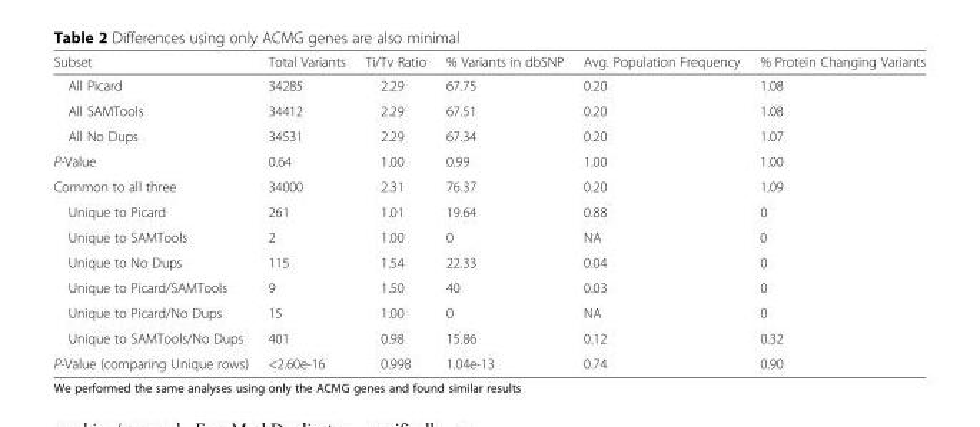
<table><thead><tr><td>Subset</td><td>Total Variants</td><td>Ti/Tv Ratio</td><td>% Variants in dbSNP</td><td>Avg. Population Frequency</td><td>% Protein Changing Variants</td></tr></thead><tbody><tr><td>All Picard</td><td>34285</td><td>2.29</td><td>67.75</td><td>0.20</td><td>1.08</td></tr><tr><td>All SAMTools</td><td>34412</td><td>2.29</td><td>67.51</td><td>0.20</td><td>1.08</td></tr><tr><td>All No Dups</td><td>34531</td><td>2.29</td><td>67.34</td><td>0.20</td><td>1.07</td></tr><tr><td>P-Value</td><td>0.64</td><td>1.00</td><td>0.99</td><td>1.00</td><td>1.00</td></tr><tr><td>Common to all three</td><td>34000</td><td>2.31</td><td>76.37</td><td>0.20</td><td>1.09</td></tr><tr><td>Unique to Picard</td><td>261</td><td>1.01</td><td>19.64</td><td>0.88</td><td>0</td></tr><tr><td>Unique to SAMTools</td><td>2</td><td>1.00</td><td>0</td><td>NA</td><td>0</td></tr><tr><td>Unique to No Dups</td><td>115</td><td>1.54</td><td>22.33</td><td>0.04</td><td>0</td></tr><tr><td>Unique to Picard/SAMTools</td><td>9</td><td>1.50</td><td>40</td><td>0.03</td><td>0</td></tr><tr><td>Unique to Picard/No Dups</td><td>15</td><td>1.00</td><td>0</td><td>NA</td><td>0</td></tr><tr><td>Unique to SAMTools/No Dups</td><td>401</td><td>0.98</td><td>15.86</td><td>0.12</td><td>0.32</td></tr><tr><td>P-Value (comparing Unique rows)</td><td>&lt;2.60e-16</td><td>0.998</td><td>1.04e-13</td><td>0.74</td><td>0.90</td></tr></tbody></table>